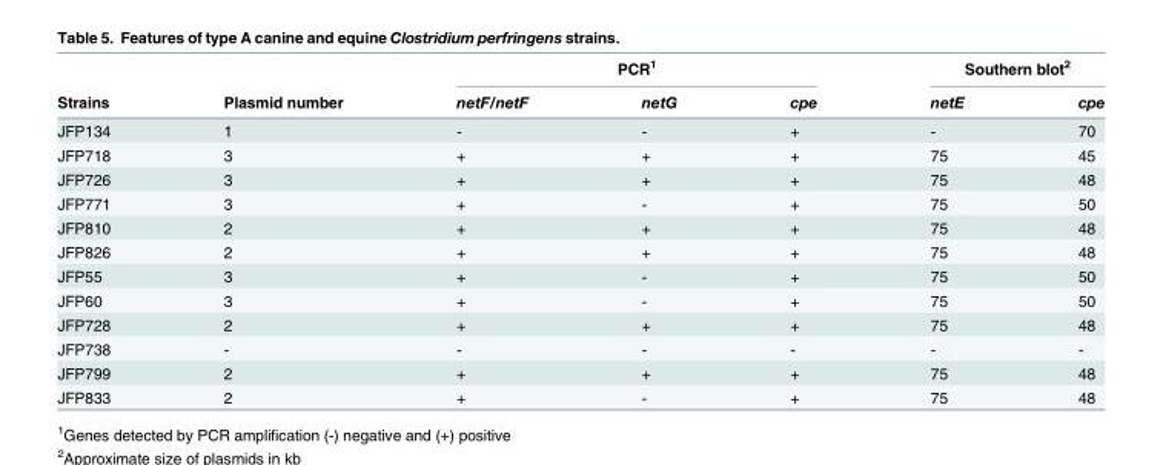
<table><thead><tr><td rowspan="2">Strains</td><td rowspan="2">Plasmid number</td><td colspan="3">PCR<sup>1</sup></td><td colspan="2">Southern blot<sup>2</sup></td></tr><tr><td>netF/netF</td><td>netG</td><td>cpe</td><td>netE</td><td>cpe</td></tr></thead><tbody><tr><td>JFP134</td><td>1</td><td>-</td><td>-</td><td>+</td><td>-</td><td>70</td></tr><tr><td>JFP718</td><td>3</td><td>+</td><td>+</td><td>+</td><td>75</td><td>45</td></tr><tr><td>JFP726</td><td>3</td><td>+</td><td>+</td><td>+</td><td>75</td><td>48</td></tr><tr><td>JFP771</td><td>3</td><td>+</td><td>-</td><td>+</td><td>75</td><td>50</td></tr><tr><td>JFP810</td><td>2</td><td>+</td><td>+</td><td>+</td><td>75</td><td>48</td></tr><tr><td>JFP826</td><td>2</td><td>+</td><td>+</td><td>+</td><td>75</td><td>48</td></tr><tr><td>JFP55</td><td>3</td><td>+</td><td>-</td><td>+</td><td>75</td><td>50</td></tr><tr><td>JFP60</td><td>3</td><td>+</td><td>-</td><td>+</td><td>75</td><td>50</td></tr><tr><td>JFP728</td><td>2</td><td>+</td><td>+</td><td>+</td><td>75</td><td>48</td></tr><tr><td>JFP738</td><td>-</td><td>-</td><td>-</td><td>-</td><td>-</td><td>-</td></tr><tr><td>JFP799</td><td>2</td><td>+</td><td>+</td><td>+</td><td>75</td><td>48</td></tr><tr><td>JFP833</td><td>2</td><td>+</td><td>-</td><td>+</td><td>75</td><td>48</td></tr></tbody></table>